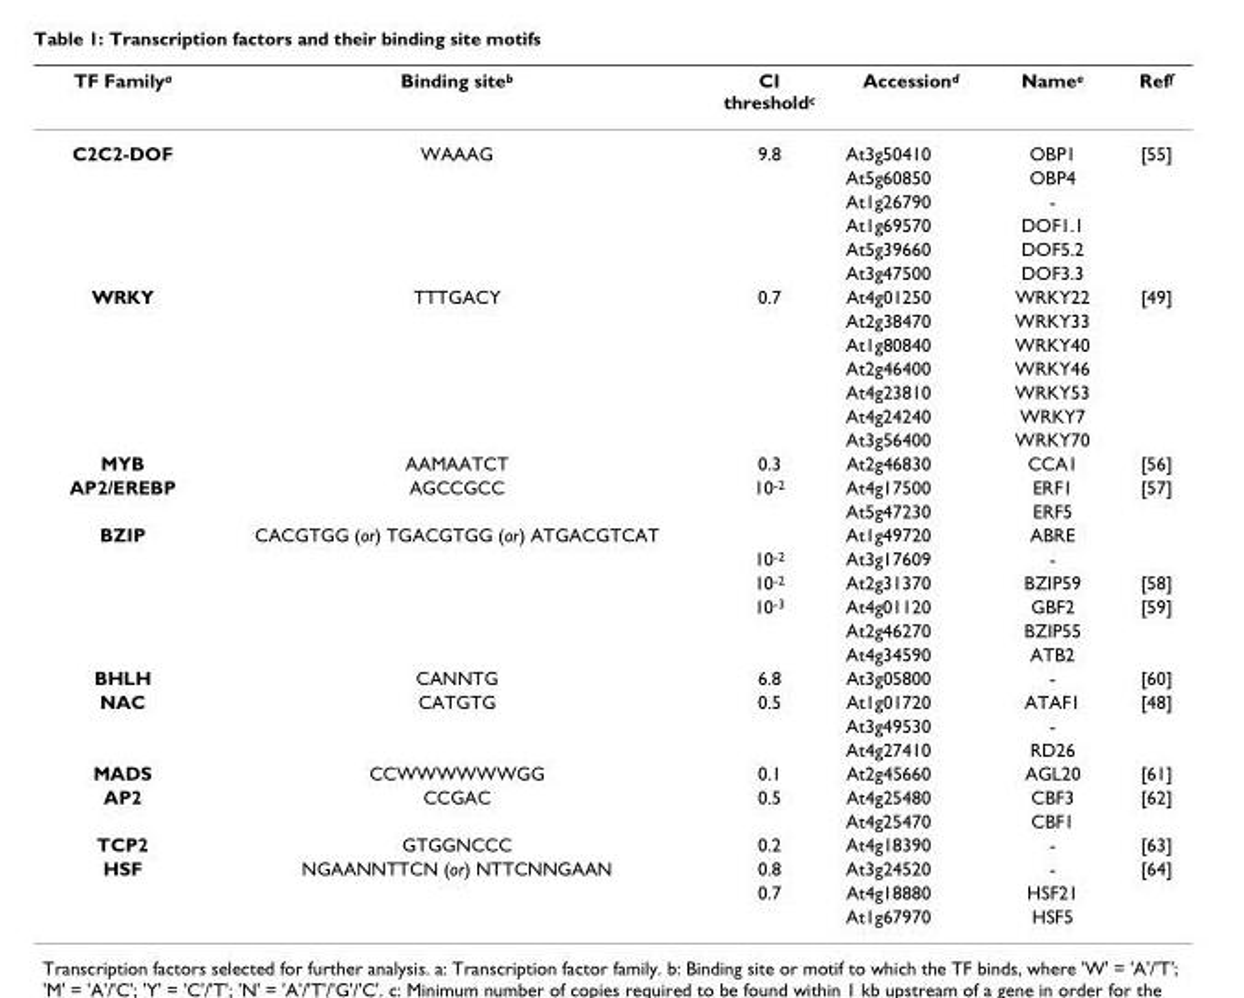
<table><thead><tr><td>TF Family<sup>a</sup></td><td>Binding site<sup>b</sup></td><td>CI threshold<sup>c</sup></td><td>Accession<sup>d</sup></td><td>Name<sup>e</sup></td><td>Ref<sup>f</sup></td></tr></thead><tbody><tr><td rowspan="6">C2C2-DOF</td><td>WAAAG</td><td>9.8</td><td>At3g50410</td><td>OBP1</td><td>[55]</td></tr><tr><td></td><td></td><td>At5g60850</td><td>OBP4</td><td></td></tr><tr><td></td><td></td><td>At1g26790</td><td>-</td><td></td></tr><tr><td></td><td></td><td>At1g69570</td><td>DOF1.1</td><td></td></tr><tr><td></td><td></td><td>At5g39660</td><td>DOF5.2</td><td></td></tr><tr><td></td><td></td><td>At3g47500</td><td>DOF3.3</td><td></td></tr><tr><td rowspan="7">WRKY</td><td>TTTGACY</td><td>0.7</td><td>At4g01250</td><td>WRKY22</td><td>[49]</td></tr><tr><td></td><td></td><td>At2g38470</td><td>WRKY33</td><td></td></tr><tr><td></td><td></td><td>At1g80840</td><td>WRKY40</td><td></td></tr><tr><td></td><td></td><td>At2g46400</td><td>WRKY46</td><td></td></tr><tr><td></td><td></td><td>At4g23810</td><td>WRKY53</td><td></td></tr><tr><td></td><td></td><td>At4g24240</td><td>WRKY7</td><td></td></tr><tr><td></td><td></td><td>At3g56400</td><td>WRKY70</td><td></td></tr><tr><td>MYB</td><td>AAMAATCT</td><td>0.3</td><td>At2g46830</td><td>CCA1</td><td>[56]</td></tr><tr><td rowspan="2">AP2/EREBP</td><td>AGCCGCC</td><td>10<sup>-2</sup></td><td>At4g17500</td><td>ERF1</td><td>[57]</td></tr><tr><td></td><td></td><td>At5g47230</td><td>ERF5</td><td></td></tr><tr><td rowspan="6">BZIP</td><td>CACGTGG (or) TGACGTGG (or) ATGACGTCAT</td><td></td><td>At1g49720</td><td>ABRE</td><td></td></tr><tr><td></td><td>10<sup>-2</sup></td><td>At3g17609</td><td>-</td><td></td></tr><tr><td></td><td>10<sup>-2</sup></td><td>At2g31370</td><td>BZIP59</td><td>[58]</td></tr><tr><td></td><td>10<sup>-3</sup></td><td>At4g01120</td><td>GBF2</td><td>[59]</td></tr><tr><td></td><td></td><td>At2g46270</td><td>BZIP55</td><td></td></tr><tr><td></td><td></td><td>At4g34590</td><td>ATB2</td><td></td></tr><tr><td>BHLH</td><td>CANNTG</td><td>6.8</td><td>At3g05800</td><td>-</td><td>[60]</td></tr><tr><td rowspan="3">NAC</td><td>CATGTG</td><td>0.5</td><td>At1g01720</td><td>ATAF1</td><td>[48]</td></tr><tr><td></td><td></td><td>At3g49530</td><td>-</td><td></td></tr><tr><td></td><td></td><td>At4g27410</td><td>RD26</td><td></td></tr><tr><td>MADS</td><td>CCWWWWWWGG</td><td>0.1</td><td>At2g45660</td><td>AGL20</td><td>[61]</td></tr><tr><td rowspan="2">AP2</td><td>CCGAC</td><td>0.5</td><td>At4g25480</td><td>CBF3</td><td>[62]</td></tr><tr><td></td><td></td><td>At4g25470</td><td>CBF1</td><td></td></tr><tr><td>TCP2</td><td>GTGGNCCC</td><td>0.2</td><td>At4g18390</td><td>-</td><td>[63]</td></tr><tr><td rowspan="3">HSF</td><td>NGAANNTTCN (or) NTTCNNGAAN</td><td>0.8</td><td>At3g24520</td><td>-</td><td>[64]</td></tr><tr><td></td><td>0.7</td><td>At4g18880</td><td>HSF21</td><td></td></tr><tr><td></td><td></td><td>At1g67970</td><td>HSF5</td><td></td></tr></tbody></table>